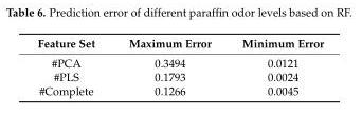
<table><thead><tr><td>Feature Set</td><td>Maximum Error</td><td>Minimum Error</td></tr></thead><tbody><tr><td>#PCA</td><td>0.3494</td><td>0.0121</td></tr><tr><td>#PLS</td><td>0.1793</td><td>0.0024</td></tr><tr><td>#Complete</td><td>0.1266</td><td>0.0045</td></tr></tbody></table>